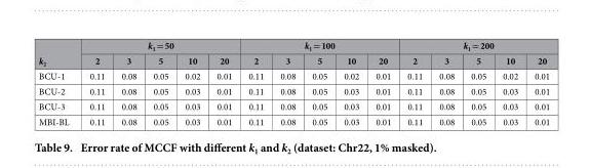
<table><thead><tr><td rowspan="2">k<sub>2</sub></td><td colspan="5">k<sub>1</sub> = 50</td><td colspan="5">k<sub>1</sub> = 100</td><td colspan="5">k<sub>1</sub> = 200</td></tr><tr><td>2</td><td>3</td><td>5</td><td>10</td><td>20</td><td>2</td><td>3</td><td>5</td><td>10</td><td>20</td><td>2</td><td>3</td><td>5</td><td>10</td><td>20</td></tr></thead><tbody><tr><td>BCU-1</td><td>0.11</td><td>0.08</td><td>0.05</td><td>0.02</td><td>0.01</td><td>0.11</td><td>0.08</td><td>0.05</td><td>0.02</td><td>0.01</td><td>0.11</td><td>0.08</td><td>0.05</td><td>0.02</td><td>0.01</td></tr><tr><td>BCU-2</td><td>0.11</td><td>0.08</td><td>0.05</td><td>0.03</td><td>0.01</td><td>0.11</td><td>0.08</td><td>0.05</td><td>0.03</td><td>0.01</td><td>0.11</td><td>0.08</td><td>0.05</td><td>0.03</td><td>0.01</td></tr><tr><td>BCU-3</td><td>0.11</td><td>0.08</td><td>0.05</td><td>0.03</td><td>0.01</td><td>0.11</td><td>0.08</td><td>0.05</td><td>0.03</td><td>0.01</td><td>0.11</td><td>0.08</td><td>0.05</td><td>0.03</td><td>0.01</td></tr><tr><td>MBI-BL</td><td>0.11</td><td>0.08</td><td>0.05</td><td>0.03</td><td>0.01</td><td>0.11</td><td>0.08</td><td>0.05</td><td>0.03</td><td>0.01</td><td>0.11</td><td>0.08</td><td>0.05</td><td>0.03</td><td>0.01</td></tr></tbody></table>